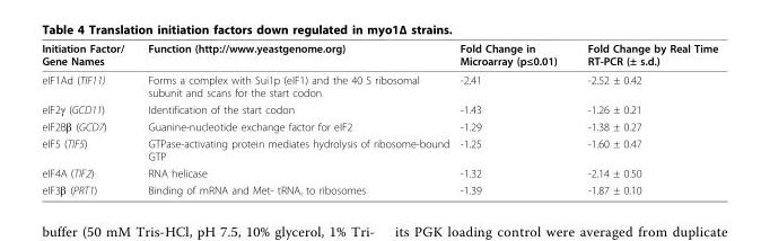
<table><thead><tr><td>Initiation Factor/ Gene Names</td><td>Function (http://www.yeastgenome.org)</td><td>Fold Change in Microarray (p≤0.01)</td><td>Fold Change by Real Time RT-PCR (± s.d.)</td></tr></thead><tbody><tr><td>eIF1Ad (TIF11)</td><td>Forms a complex with Sui1p (eIF1) and the 40 S ribosomal subunit and scans for the start codon</td><td>-2.41</td><td>-2.52 ± 0.42</td></tr><tr><td>eIF2γ (GCD11)</td><td>Identification of the start codon</td><td>-1.43</td><td>-1.26 ± 0.21</td></tr><tr><td>eIF2Bβ (GCD7)</td><td>Guanine-nucleotide exchange factor for eIF2</td><td>-1.29</td><td>-1.38 ± 0.27</td></tr><tr><td>eIF5 (TIF5)</td><td>GTPase-activating protein mediates hydrolysis of ribosome-bound GTP</td><td>-1.25</td><td>-1.60 ± 0.47</td></tr><tr><td>eIF4A (TIF2)</td><td>RNA helicase</td><td>-1.32</td><td>-2.14 ± 0.50</td></tr><tr><td>eIF3β (PRT1)</td><td>Binding of mRNA and Met- tRNA<sub>i</sub> to ribosomes</td><td>-1.39</td><td>-1.87 ± 0.10</td></tr></tbody></table>